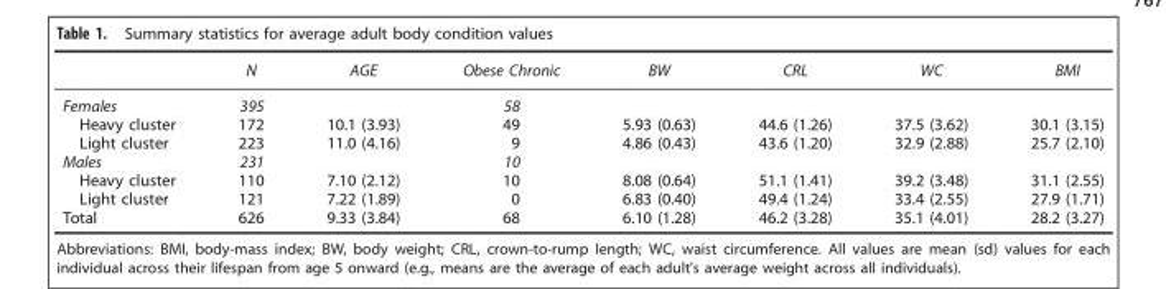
<table><thead><tr><td></td><td>N</td><td>AGE</td><td>Obese Chronic</td><td>BW</td><td>CRL</td><td>WC</td><td>BMI</td></tr></thead><tbody><tr><td>Females</td><td>395</td><td></td><td>58</td><td></td><td></td><td></td><td></td></tr><tr><td>Heavy cluster</td><td>172</td><td>10.1 (3.93)</td><td>49</td><td>5.93 (0.63)</td><td>44.6 (1.26)</td><td>37.5 (3.62)</td><td>30.1 (3.15)</td></tr><tr><td>Light cluster</td><td>223</td><td>11.0 (4.16)</td><td>9</td><td>4.86 (0.43)</td><td>43.6 (1.20)</td><td>32.9 (2.88)</td><td>25.7 (2.10)</td></tr><tr><td>Males</td><td>231</td><td></td><td>10</td><td></td><td></td><td></td><td></td></tr><tr><td>Heavy cluster</td><td>110</td><td>7.10 (2.12)</td><td>10</td><td>8.08 (0.64)</td><td>51.1 (1.41)</td><td>39.2 (3.48)</td><td>31.1 (2.55)</td></tr><tr><td>Light cluster</td><td>121</td><td>7.22 (1.89)</td><td>0</td><td>6.83 (0.40)</td><td>49.4 (1.24)</td><td>33.4 (2.55)</td><td>27.9 (1.71)</td></tr><tr><td>Total</td><td>626</td><td>9.33 (3.84)</td><td>68</td><td>6.10 (1.28)</td><td>46.2 (3.28)</td><td>35.1 (4.01)</td><td>28.2 (3.27)</td></tr></tbody></table>